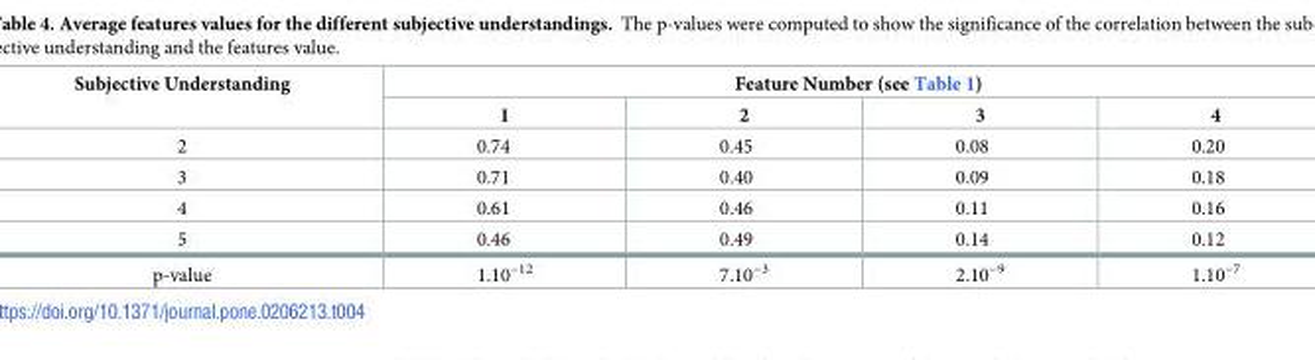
<table><thead><tr><td rowspan="2">Subjective Understanding</td><td colspan="4">Feature Number (see Table 1)</td></tr><tr><td>1</td><td>2</td><td>3</td><td>4</td></tr></thead><tbody><tr><td>2</td><td>0.74</td><td>0.45</td><td>0.08</td><td>0.20</td></tr><tr><td>3</td><td>0.71</td><td>0.40</td><td>0.09</td><td>0.18</td></tr><tr><td>4</td><td>0.61</td><td>0.46</td><td>0.11</td><td>0.16</td></tr><tr><td>5</td><td>0.46</td><td>0.49</td><td>0.14</td><td>0.12</td></tr><tr><td>p-value</td><td>1.10<sup>−12</sup></td><td>7.10<sup>−3</sup></td><td>2.10<sup>−9</sup></td><td>1.10<sup>−7</sup></td></tr></tbody></table>